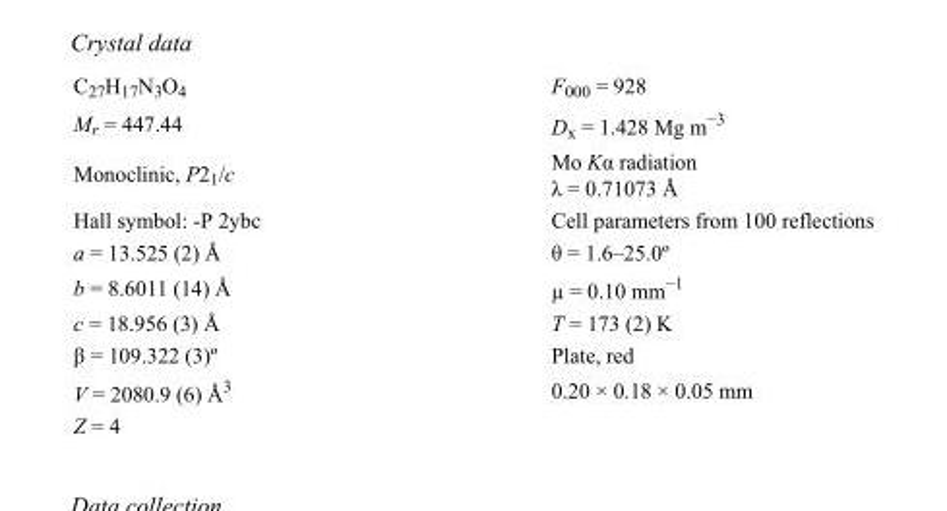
<table><tbody><tr><td>C<sub>27</sub>H<sub>17</sub>N<sub>3</sub>O<sub>4</sub></td><td>F<sub>000</sub> = 928</td></tr><tr><td>M<sub>r</sub> = 447.44</td><td>D<sub>x</sub> = 1.428 Mg m<sup>−3</sup></td></tr><tr><td>Monoclinic, P2<sub>1</sub>/c</td><td>Mo Kα radiation λ = 0.71073 Å</td></tr><tr><td>Hall symbol: -P 2ybc</td><td>Cell parameters from 100 reflections</td></tr><tr><td>a = 13.525 (2) Å</td><td>θ = 1.6–25.0º</td></tr><tr><td>b = 8.6011 (14) Å</td><td>µ = 0.10 mm<sup>−1</sup></td></tr><tr><td>c = 18.956 (3) Å</td><td>T = 173 (2) K</td></tr><tr><td>β = 109.322 (3)º</td><td>Plate, red</td></tr><tr><td>V = 2080.9 (6) Å<sup>3</sup></td><td>0.20 × 0.18 × 0.05 mm</td></tr><tr><td>Z = 4</td><td></td></tr></tbody></table>